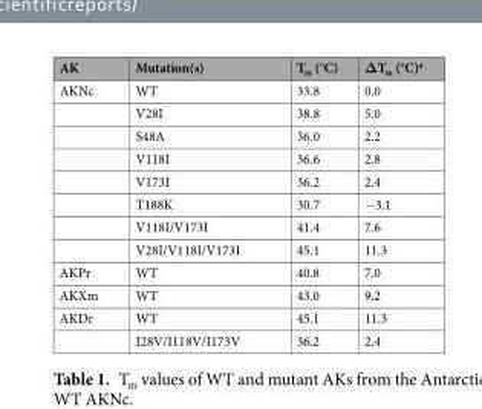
<table><thead><tr><td>AK</td><td>Mutation(s)</td><td>T<sub>m</sub> (°C)</td><td>ΔT<sub>m</sub> (°C)<sup>a</sup></td></tr></thead><tbody><tr><td rowspan="8">AKNc</td><td>WT</td><td>33.8</td><td>0.0</td></tr><tr><td>V28I</td><td>38.8</td><td>5.0</td></tr><tr><td>S48A</td><td>36.0</td><td>2.2</td></tr><tr><td>V118I</td><td>36.6</td><td>2.8</td></tr><tr><td>V173I</td><td>36.2</td><td>2.4</td></tr><tr><td>T188K</td><td>30.7</td><td>−3.1</td></tr><tr><td>V118I/V173I</td><td>41.4</td><td>7.6</td></tr><tr><td>V28I/V118I/V173I</td><td>45.1</td><td>11.3</td></tr><tr><td>AKPr</td><td>WT</td><td>40.8</td><td>7.0</td></tr><tr><td>AKXm</td><td>WT</td><td>43.0</td><td>9.2</td></tr><tr><td rowspan="2">AKDr</td><td>WT</td><td>45.1</td><td>11.3</td></tr><tr><td>I28V/I118V/I173V</td><td>36.2</td><td>2.4</td></tr></tbody></table>